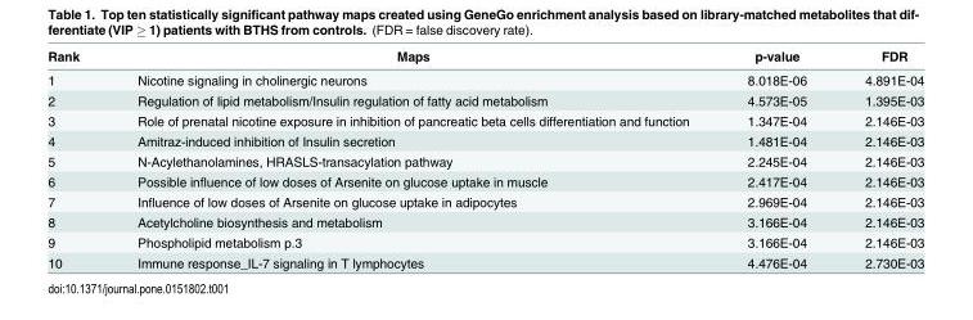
<table><thead><tr><td>Rank</td><td>Maps</td><td>p-value</td><td>FDR</td></tr></thead><tbody><tr><td>1</td><td>Nicotine signaling in cholinergic neurons</td><td>8.018E-06</td><td>4.891E-04</td></tr><tr><td>2</td><td>Regulation of lipid metabolism/Insulin regulation of fatty acid metabolism</td><td>4.573E-05</td><td>1.395E-03</td></tr><tr><td>3</td><td>Role of prenatal nicotine exposure in inhibition of pancreatic beta cells differentiation and function</td><td>1.347E-04</td><td>2.146E-03</td></tr><tr><td>4</td><td>Amitraz-induced inhibition of Insulin secretion</td><td>1.481E-04</td><td>2.146E-03</td></tr><tr><td>5</td><td>N-Acylethanolamines, HRASLS-transacylation pathway</td><td>2.245E-04</td><td>2.146E-03</td></tr><tr><td>6</td><td>Possible influence of low doses of Arsenite on glucose uptake in muscle</td><td>2.417E-04</td><td>2.146E-03</td></tr><tr><td>7</td><td>Influence of low doses of Arsenite on glucose uptake in adipocytes</td><td>2.969E-04</td><td>2.146E-03</td></tr><tr><td>8</td><td>Acetylcholine biosynthesis and metabolism</td><td>3.166E-04</td><td>2.146E-03</td></tr><tr><td>9</td><td>Phospholipid metabolism p.3</td><td>3.166E-04</td><td>2.146E-03</td></tr><tr><td>10</td><td>Immune response_IL-7 signaling in T lymphocytes</td><td>4.476E-04</td><td>2.730E-03</td></tr></tbody></table>